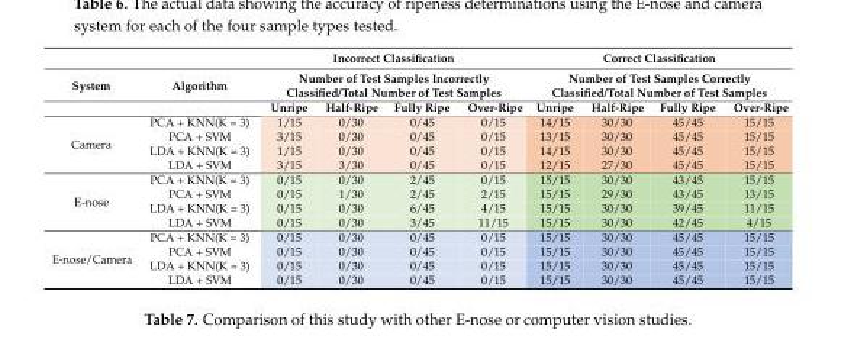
<table><thead><tr><td rowspan="3">System</td><td rowspan="3">Algorithm</td><td rowspan="2" colspan="4">Incorrect Classification Number of Test Samples Incorrectly Classified/Total Number of Test Samples</td><td rowspan="2" colspan="4">Correct Classification Number of Test Samples Correctly Classified/Total Number of Test Samples</td></tr><tr></tr><tr><td>Unripe</td><td>Half-Ripe</td><td>Fully Ripe</td><td>Over-Ripe</td><td>Unripe</td><td>Half-Ripe</td><td>Fully Ripe</td><td>Over-Ripe</td></tr></thead><tbody><tr><td rowspan="4">Camera</td><td>PCA + KNN(K = 3)</td><td>1/15</td><td>0/30</td><td>0/45</td><td>0/15</td><td>14/15</td><td>30/30</td><td>45/45</td><td>15/15</td></tr><tr><td>PCA + SVM</td><td>3/15</td><td>0/30</td><td>0/45</td><td>0/15</td><td>13/15</td><td>30/30</td><td>45/45</td><td>15/15</td></tr><tr><td>LDA + KNN(K = 3)</td><td>1/15</td><td>0/30</td><td>0/45</td><td>0/15</td><td>14/15</td><td>30/30</td><td>45/45</td><td>15/15</td></tr><tr><td>LDA + SVM</td><td>3/15</td><td>3/30</td><td>0/45</td><td>0/15</td><td>12/15</td><td>27/30</td><td>45/45</td><td>15/15</td></tr><tr><td rowspan="4">E-nose</td><td>PCA + KNN(K = 3)</td><td>0/15</td><td>0/30</td><td>2/45</td><td>0/15</td><td>15/15</td><td>30/30</td><td>43/45</td><td>15/15</td></tr><tr><td>PCA + SVM</td><td>0/15</td><td>1/30</td><td>2/45</td><td>2/15</td><td>15/15</td><td>29/30</td><td>43/45</td><td>13/15</td></tr><tr><td>LDA + KNN(K = 3)</td><td>0/15</td><td>0/30</td><td>6/45</td><td>4/15</td><td>15/15</td><td>30/30</td><td>39/45</td><td>11/15</td></tr><tr><td>LDA + SVM</td><td>0/15</td><td>0/30</td><td>3/45</td><td>11/15</td><td>15/15</td><td>30/30</td><td>42/45</td><td>4/15</td></tr><tr><td rowspan="4">E-nose/Camera</td><td>PCA + KNN(K = 3)</td><td>0/15</td><td>0/30</td><td>0/45</td><td>0/15</td><td>15/15</td><td>30/30</td><td>45/45</td><td>15/15</td></tr><tr><td>PCA + SVM</td><td>0/15</td><td>0/30</td><td>0/45</td><td>0/15</td><td>15/15</td><td>30/30</td><td>45/45</td><td>15/15</td></tr><tr><td>LDA + KNN(K = 3)</td><td>0/15</td><td>0/30</td><td>0/45</td><td>0/15</td><td>15/15</td><td>30/30</td><td>45/45</td><td>15/15</td></tr><tr><td>LDA + SVM</td><td>0/15</td><td>0/30</td><td>0/45</td><td>0/15</td><td>15/15</td><td>30/30</td><td>45/45</td><td>15/15</td></tr></tbody></table>